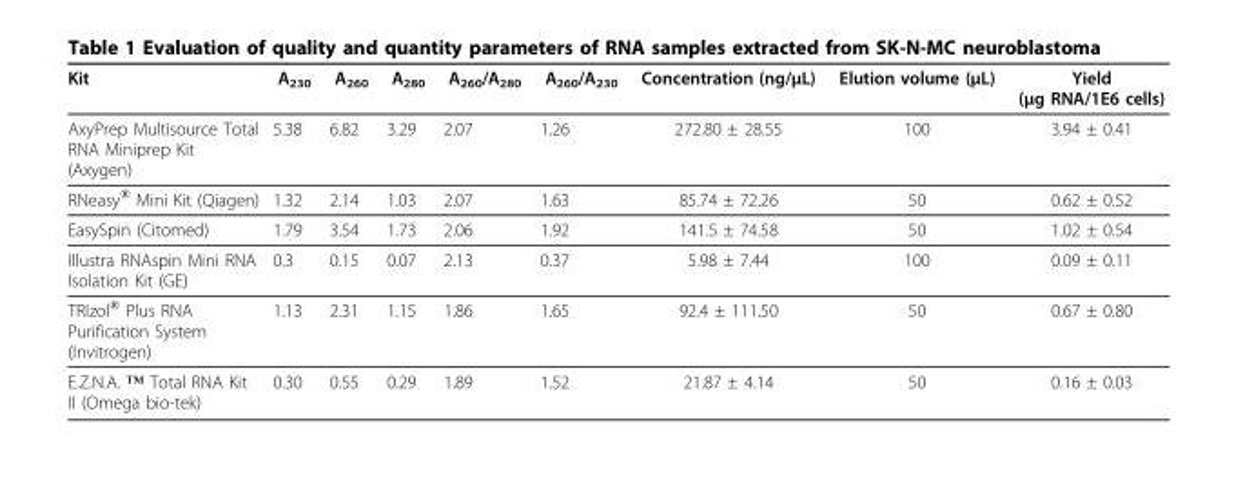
<table><thead><tr><td>Kit</td><td>A<sub>230</sub></td><td>A<sub>260</sub></td><td>A<sub>280</sub></td><td>A<sub>260</sub>/A<sub>280</sub></td><td>A<sub>260</sub>/A<sub>230</sub></td><td>Concentration (ng/μL)</td><td>Elution volume (μL)</td><td>Yield (μg RNA/1E6 cells)</td></tr></thead><tbody><tr><td>AxyPrep Multisource Total RNA Miniprep Kit (Axygen)</td><td>5.38</td><td>6.82</td><td>3.29</td><td>2.07</td><td>1.26</td><td>272.80 ± 28.55</td><td>100</td><td>3.94 ± 0.41</td></tr><tr><td>RNeasy<sup>®</sup> Mini Kit (Qiagen)</td><td>1.32</td><td>2.14</td><td>1.03</td><td>2.07</td><td>1.63</td><td>85.74 ± 72.26</td><td>50</td><td>0.62 ± 0.52</td></tr><tr><td>EasySpin (Citomed)</td><td>1.79</td><td>3.54</td><td>1.73</td><td>2.06</td><td>1.92</td><td>141.5 ± 74.58</td><td>50</td><td>1.02 ± 0.54</td></tr><tr><td>Illustra RNAspin Mini RNA Isolation Kit (GE)</td><td>0.3</td><td>0.15</td><td>0.07</td><td>2.13</td><td>0.37</td><td>5.98 ± 7.44</td><td>100</td><td>0.09 ± 0.11</td></tr><tr><td>TRIzol<sup>®</sup> Plus RNA Purification System (Invitrogen)</td><td>1.13</td><td>2.31</td><td>1.15</td><td>1.86</td><td>1.65</td><td>92.4 ± 111.50</td><td>50</td><td>0.67 ± 0.80</td></tr><tr><td>E.Z.N.A. ™ Total RNA Kit II (Omega bio-tek)</td><td>0.30</td><td>0.55</td><td>0.29</td><td>1.89</td><td>1.52</td><td>21.87 ± 4.14</td><td>50</td><td>0.16 ± 0.03</td></tr></tbody></table>